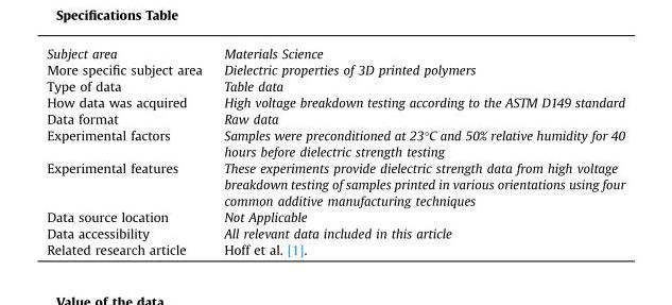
<table><thead><tr><td>Subject area</td><td>Materials Science</td></tr></thead><tbody><tr><td>More specific subject area</td><td>Dielectric properties of 3D printed polymers</td></tr><tr><td>Type of data</td><td>Table data</td></tr><tr><td>How data was acquired</td><td>High voltage breakdown testing according to the ASTM D149 standard</td></tr><tr><td>Data format</td><td>Raw data</td></tr><tr><td>Experimental factors</td><td>Samples were preconditioned at 23°C and 50% relative humidity for 40 hours before dielectric strength testing</td></tr><tr><td>Experimental features</td><td>These experiments provide dielectric strength data from high voltage breakdown testing of samples printed in various orientations using four common additive manufacturing techniques</td></tr><tr><td>Data source location</td><td>Not Applicable</td></tr><tr><td>Data accessibility</td><td>All relevant data included in this article</td></tr><tr><td>Related research article</td><td>Hoff et al. [1].</td></tr></tbody></table>